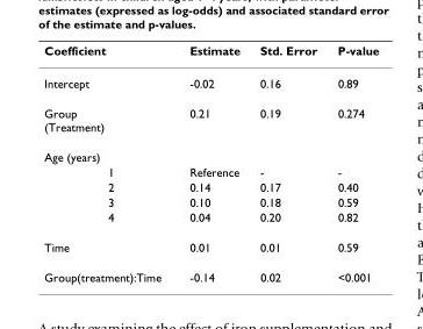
<table><thead><tr><td>Coefficient</td><td>Estimate</td><td>Std. Error</td><td>P-value</td></tr></thead><tbody><tr><td>Intercept</td><td>-0.02</td><td>0.16</td><td>0.89</td></tr><tr><td>Group (Treatment)</td><td>0.21</td><td>0.19</td><td>0.274</td></tr><tr><td colspan="4">Age (years)</td></tr><tr><td>1</td><td>Reference</td><td>-</td><td>-</td></tr><tr><td>2</td><td>0.14</td><td>0.17</td><td>0.40</td></tr><tr><td>3</td><td>0.10</td><td>0.18</td><td>0.59</td></tr><tr><td>4</td><td>0.04</td><td>0.20</td><td>0.82</td></tr><tr><td>Time</td><td>0.01</td><td>0.01</td><td>0.59</td></tr><tr><td>Group(treatment):Time</td><td>-0.14</td><td>0.02</td><td>&lt;0.001</td></tr></tbody></table>